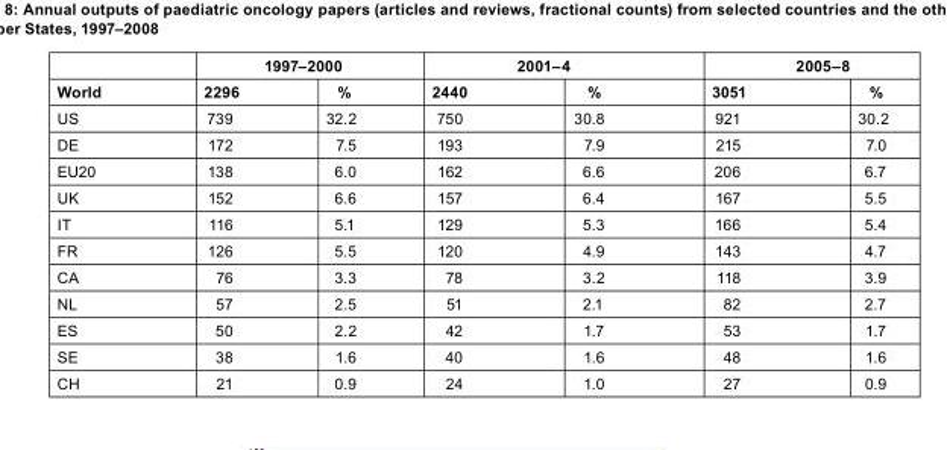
<table><thead><tr><td rowspan="2">World</td><td colspan="2">1997–2000</td><td colspan="2">2001–4</td><td colspan="2">2005–8</td></tr><tr><td>2296</td><td>%</td><td>2440</td><td>%</td><td>3051</td><td>%</td></tr></thead><tbody><tr><td>US</td><td>739</td><td>32.2</td><td>750</td><td>30.8</td><td>921</td><td>30.2</td></tr><tr><td>DE</td><td>172</td><td>7.5</td><td>193</td><td>7.9</td><td>215</td><td>7.0</td></tr><tr><td>EU20</td><td>138</td><td>6.0</td><td>162</td><td>6.6</td><td>206</td><td>6.7</td></tr><tr><td>UK</td><td>152</td><td>6.6</td><td>157</td><td>6.4</td><td>167</td><td>5.5</td></tr><tr><td>IT</td><td>116</td><td>5.1</td><td>129</td><td>5.3</td><td>166</td><td>5.4</td></tr><tr><td>FR</td><td>126</td><td>5.5</td><td>120</td><td>4.9</td><td>143</td><td>4.7</td></tr><tr><td>CA</td><td>76</td><td>3.3</td><td>78</td><td>3.2</td><td>118</td><td>3.9</td></tr><tr><td>NL</td><td>57</td><td>2.5</td><td>51</td><td>2.1</td><td>82</td><td>2.7</td></tr><tr><td>ES</td><td>50</td><td>2.2</td><td>42</td><td>1.7</td><td>53</td><td>1.7</td></tr><tr><td>SE</td><td>38</td><td>1.6</td><td>40</td><td>1.6</td><td>48</td><td>1.6</td></tr><tr><td>CH</td><td>21</td><td>0.9</td><td>24</td><td>1.0</td><td>27</td><td>0.9</td></tr></tbody></table>